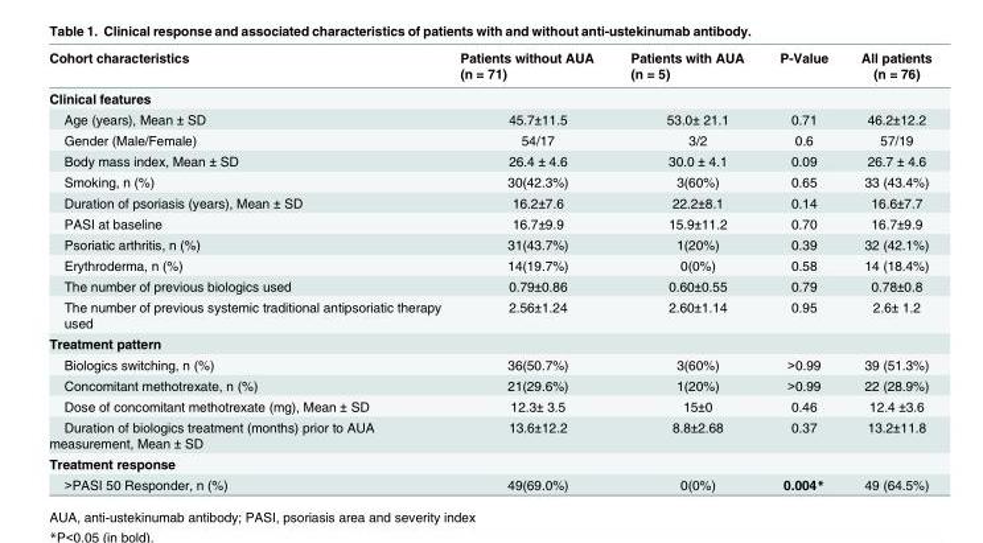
<table><thead><tr><td>Cohort characteristics</td><td>Patients without AUA (n = 71)</td><td>Patients with AUA (n = 5)</td><td>P-Value</td><td>All patients (n = 76)</td></tr></thead><tbody><tr><td colspan="5">Clinical features</td></tr><tr><td>Age (years), Mean ± SD</td><td>45.7±11.5</td><td>53.0± 21.1</td><td>0.71</td><td>46.2±12.2</td></tr><tr><td>Gender (Male/Female)</td><td>54/17</td><td>3/2</td><td>0.6</td><td>57/19</td></tr><tr><td>Body mass index, Mean ± SD</td><td>26.4 ± 4.6</td><td>30.0 ± 4.1</td><td>0.09</td><td>26.7 ± 4.6</td></tr><tr><td>Smoking, n (%)</td><td>30(42.3%)</td><td>3(60%)</td><td>0.65</td><td>33 (43.4%)</td></tr><tr><td>Duration of psoriasis (years), Mean ± SD</td><td>16.2±7.6</td><td>22.2±8.1</td><td>0.14</td><td>16.6±7.7</td></tr><tr><td>PASI at baseline</td><td>16.7±9.9</td><td>15.9±11.2</td><td>0.70</td><td>16.7±9.9</td></tr><tr><td>Psoriatic arthritis, n (%)</td><td>31(43.7%)</td><td>1(20%)</td><td>0.39</td><td>32 (42.1%)</td></tr><tr><td>Erythroderma, n (%)</td><td>14(19.7%)</td><td>0(0%)</td><td>0.58</td><td>14 (18.4%)</td></tr><tr><td>The number of previous biologics used</td><td>0.79±0.86</td><td>0.60±0.55</td><td>0.79</td><td>0.78±0.8</td></tr><tr><td>The number of previous systemic traditional antipsoriatic therapy used</td><td>2.56±1.24</td><td>2.60±1.14</td><td>0.95</td><td>2.6± 1.2</td></tr><tr><td colspan="5">Treatment pattern</td></tr><tr><td>Biologics switching, n (%)</td><td>36(50.7%)</td><td>3(60%)</td><td>&gt;0.99</td><td>39 (51.3%)</td></tr><tr><td>Concomitant methotrexate, n (%)</td><td>21(29.6%)</td><td>1(20%)</td><td>&gt;0.99</td><td>22 (28.9%)</td></tr><tr><td>Dose of concomitant methotrexate (mg), Mean ± SD</td><td>12.3± 3.5</td><td>15±0</td><td>0.46</td><td>12.4 ±3.6</td></tr><tr><td>Duration of biologics treatment (months) prior to AUA measurement, Mean ± SD</td><td>13.6±12.2</td><td>8.8±2.68</td><td>0.37</td><td>13.2±11.8</td></tr><tr><td colspan="5">Treatment response</td></tr><tr><td>&gt;PASI 50 Responder, n (%)</td><td>49(69.0%)</td><td>0(0%)</td><td>0.004*</td><td>49 (64.5%)</td></tr></tbody></table>